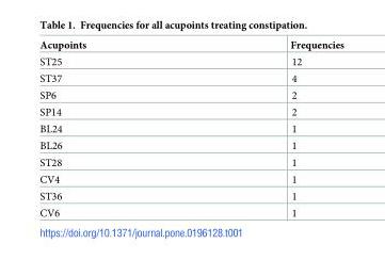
<table><thead><tr><td>Acupoints</td><td>Frequencies</td></tr></thead><tbody><tr><td>ST25</td><td>12</td></tr><tr><td>ST37</td><td>4</td></tr><tr><td>SP6</td><td>2</td></tr><tr><td>SP14</td><td>2</td></tr><tr><td>BL24</td><td>1</td></tr><tr><td>BL26</td><td>1</td></tr><tr><td>ST28</td><td>1</td></tr><tr><td>CV4</td><td>1</td></tr><tr><td>ST36</td><td>1</td></tr><tr><td>CV6</td><td>1</td></tr></tbody></table>